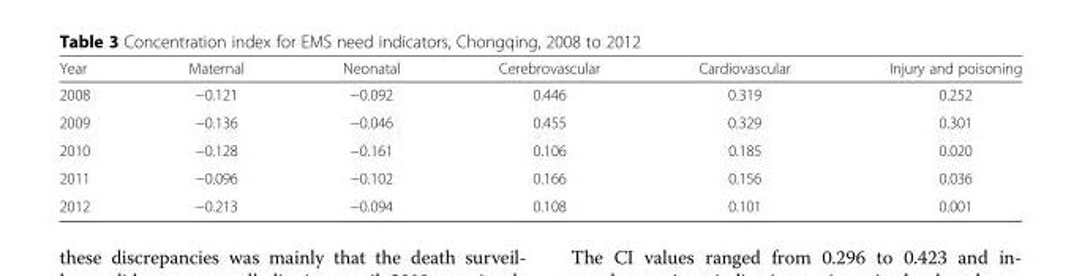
<table><thead><tr><td>Year</td><td>Maternal</td><td>Neonatal</td><td>Cerebrovascular</td><td>Cardiovascular</td><td>Injury and poisoning</td></tr></thead><tbody><tr><td>2008</td><td>−0.121</td><td>−0.092</td><td>0.446</td><td>0.319</td><td>0.252</td></tr><tr><td>2009</td><td>−0.136</td><td>−0.046</td><td>0.455</td><td>0.329</td><td>0.301</td></tr><tr><td>2010</td><td>−0.128</td><td>−0.161</td><td>0.106</td><td>0.185</td><td>0.020</td></tr><tr><td>2011</td><td>−0.096</td><td>−0.102</td><td>0.166</td><td>0.156</td><td>0.036</td></tr><tr><td>2012</td><td>−0.213</td><td>−0.094</td><td>0.108</td><td>0.101</td><td>0.001</td></tr></tbody></table>